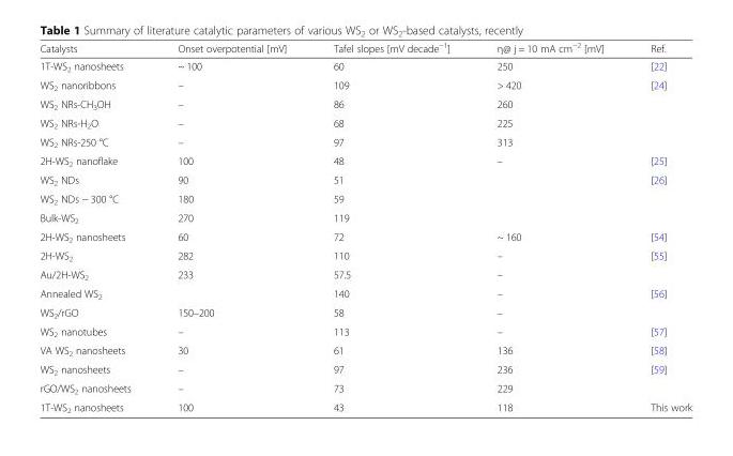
<table><thead><tr><td>Catalysts</td><td>Onset overpotential [mV]</td><td>Tafel slopes [mV decade<sup>−1</sup>]</td><td>η@ j = 10 mA cm<sup>−2</sup> [mV]</td><td>Ref.</td></tr></thead><tbody><tr><td>1T-WS<sub>2</sub> nanosheets</td><td>~ 100</td><td>60</td><td>250</td><td>[22]</td></tr><tr><td>WS<sub>2</sub> nanoribbons</td><td>–</td><td>109</td><td>&gt; 420</td><td rowspan="4">[24]</td></tr><tr><td>WS<sub>2</sub> NRs-CH<sub>3</sub>OH</td><td>–</td><td>86</td><td>260</td></tr><tr><td>WS<sub>2</sub> NRs-H<sub>2</sub>O</td><td>–</td><td>68</td><td>225</td></tr><tr><td>WS<sub>2</sub> NRs-250 °C</td><td>–</td><td>97</td><td>313</td></tr><tr><td>2H-WS<sub>2</sub> nanoflake</td><td>100</td><td>48</td><td>–</td><td>[25]</td></tr><tr><td>WS<sub>2</sub> NDs</td><td>90</td><td>51</td><td></td><td rowspan="3">[26]</td></tr><tr><td>WS<sub>2</sub> NDs − 300 °C</td><td>180</td><td>59</td><td></td></tr><tr><td>Bulk-WS<sub>2</sub></td><td>270</td><td>119</td><td></td></tr><tr><td>2H-WS<sub>2</sub> nanosheets</td><td>60</td><td>72</td><td>~ 160</td><td>[54]</td></tr><tr><td>2H-WS<sub>2</sub></td><td>282</td><td>110</td><td>–</td><td rowspan="2">[55]</td></tr><tr><td>Au/2H-WS<sub>2</sub></td><td>233</td><td>57.5</td><td>–</td></tr><tr><td>Annealed WS<sub>2</sub></td><td></td><td>140</td><td>–</td><td rowspan="2">[56]</td></tr><tr><td>WS<sub>2</sub>/rGO</td><td>150–200</td><td>58</td><td>–</td></tr><tr><td>WS<sub>2</sub> nanotubes</td><td>–</td><td>113</td><td>–</td><td>[57]</td></tr><tr><td>VA WS<sub>2</sub> nanosheets</td><td>30</td><td>61</td><td>136</td><td>[58]</td></tr><tr><td>WS<sub>2</sub> nanosheets</td><td>–</td><td>97</td><td>236</td><td rowspan="2">[59]</td></tr><tr><td>rGO/WS<sub>2</sub> nanosheets</td><td>–</td><td>73</td><td>229</td></tr><tr><td>1T-WS<sub>2</sub> nanosheets</td><td>100</td><td>43</td><td>118</td><td>This work</td></tr></tbody></table>